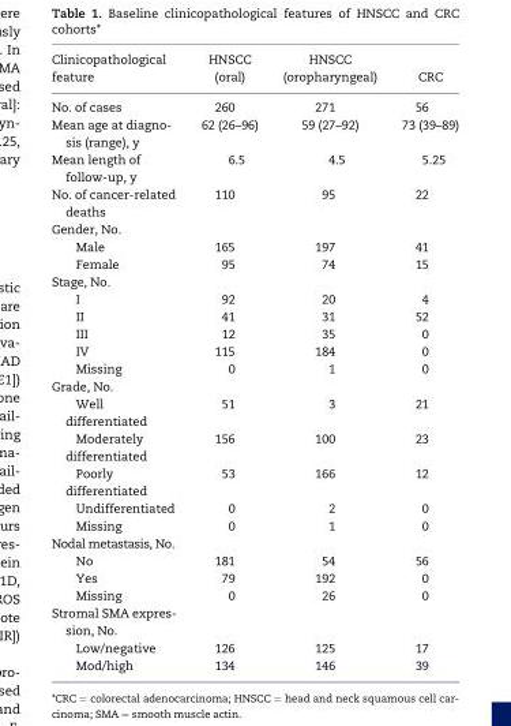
<table><thead><tr><td>Clinicopathological feature</td><td>HNSCC (oral)</td><td>HNSCC (oropharyngeal)</td><td>CRC</td></tr></thead><tbody><tr><td>No. of cases</td><td>260</td><td>271</td><td>56</td></tr><tr><td>Mean age at diagno- sis (range), y</td><td>62 (26–96)</td><td>59 (27–92)</td><td>73 (39–89)</td></tr><tr><td>Mean length of follow-up, y</td><td>6.5</td><td>4.5</td><td>5.25</td></tr><tr><td>No. of cancer-related deaths</td><td>110</td><td>95</td><td>22</td></tr><tr><td colspan="4">Gender, No.</td></tr><tr><td>Male</td><td>165</td><td>197</td><td>41</td></tr><tr><td>Female</td><td>95</td><td>74</td><td>15</td></tr><tr><td colspan="4">Stage, No.</td></tr><tr><td>I</td><td>92</td><td>20</td><td>4</td></tr><tr><td>II</td><td>41</td><td>31</td><td>52</td></tr><tr><td>III</td><td>12</td><td>35</td><td>0</td></tr><tr><td>IV</td><td>115</td><td>184</td><td>0</td></tr><tr><td>Missing</td><td>0</td><td>1</td><td>0</td></tr><tr><td colspan="4">Grade, No.</td></tr><tr><td>Well differentiated</td><td>51</td><td>3</td><td>21</td></tr><tr><td>Moderately differentiated</td><td>156</td><td>100</td><td>23</td></tr><tr><td>Poorly differentiated</td><td>53</td><td>166</td><td>12</td></tr><tr><td>Undifferentiated</td><td>0</td><td>2</td><td>0</td></tr><tr><td>Missing</td><td>0</td><td>1</td><td>0</td></tr><tr><td colspan="4">Nodal metastasis, No.</td></tr><tr><td>No</td><td>181</td><td>54</td><td>56</td></tr><tr><td>Yes</td><td>79</td><td>192</td><td>0</td></tr><tr><td>Missing</td><td>0</td><td>26</td><td>0</td></tr><tr><td colspan="4">Stromal SMA expres- sion, No.</td></tr><tr><td>Low/negative</td><td>126</td><td>125</td><td>17</td></tr><tr><td>Mod/high</td><td>134</td><td>146</td><td>39</td></tr></tbody></table>